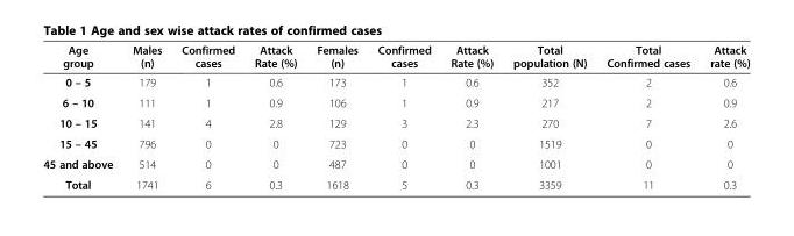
<table><thead><tr><td>Age group</td><td>Males (n)</td><td>Confirmed cases</td><td>Attack Rate (%)</td><td>Females (n)</td><td>Confirmed cases</td><td>Attack Rate (%)</td><td>Total population (N)</td><td>Total Confirmed cases</td><td>Attack rate (%)</td></tr></thead><tbody><tr><td>0 – 5</td><td>179</td><td>1</td><td>0.6</td><td>173</td><td>1</td><td>0.6</td><td>352</td><td>2</td><td>0.6</td></tr><tr><td>6 – 10</td><td>111</td><td>1</td><td>0.9</td><td>106</td><td>1</td><td>0.9</td><td>217</td><td>2</td><td>0.9</td></tr><tr><td>10 – 15</td><td>141</td><td>4</td><td>2.8</td><td>129</td><td>3</td><td>2.3</td><td>270</td><td>7</td><td>2.6</td></tr><tr><td>15 – 45</td><td>796</td><td>0</td><td>0</td><td>723</td><td>0</td><td>0</td><td>1519</td><td>0</td><td>0</td></tr><tr><td>45 and above</td><td>514</td><td>0</td><td>0</td><td>487</td><td>0</td><td>0</td><td>1001</td><td>0</td><td>0</td></tr><tr><td>Total</td><td>1741</td><td>6</td><td>0.3</td><td>1618</td><td>5</td><td>0.3</td><td>3359</td><td>11</td><td>0.3</td></tr></tbody></table>